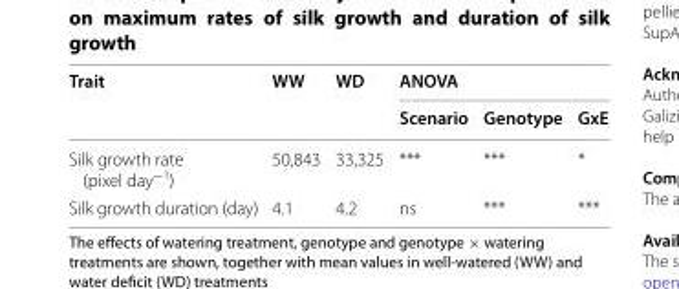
<table><thead><tr><td rowspan="2">Trait</td><td rowspan="2">WW</td><td rowspan="2">WD</td><td colspan="3">ANOVA</td></tr><tr><td>Scenario</td><td>Genotype</td><td>GxE</td></tr></thead><tbody><tr><td>Silk growth rate (pixel day<sup>−1</sup>)</td><td>50,843</td><td>33,325</td><td>***</td><td>***</td><td>*</td></tr><tr><td>Silk growth duration (day)</td><td>4.1</td><td>4.2</td><td>ns</td><td>***</td><td>***</td></tr></tbody></table>